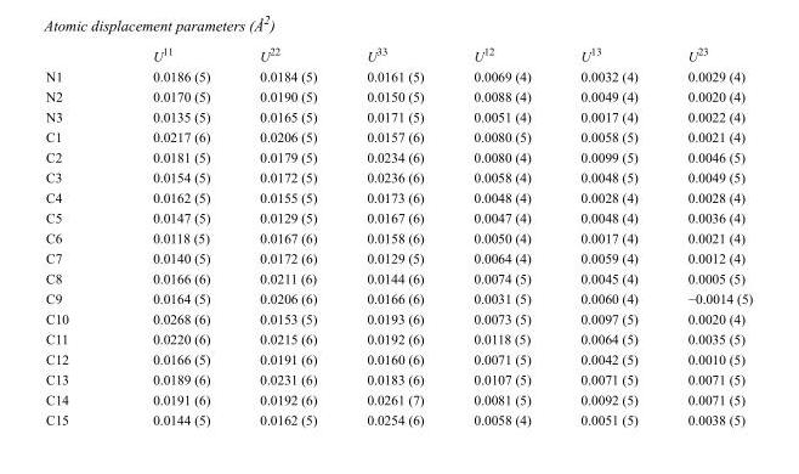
<table><thead><tr><td></td><td>U<sup>11</sup></td><td>U<sup>22</sup></td><td>U<sup>33</sup></td><td>U<sup>12</sup></td><td>U<sup>13</sup></td><td>U<sup>23</sup></td></tr></thead><tbody><tr><td>N1</td><td>0.0186 (5)</td><td>0.0184 (5)</td><td>0.0161 (5)</td><td>0.0069 (4)</td><td>0.0032 (4)</td><td>0.0029 (4)</td></tr><tr><td>N2</td><td>0.0170 (5)</td><td>0.0190 (5)</td><td>0.0150 (5)</td><td>0.0088 (4)</td><td>0.0049 (4)</td><td>0.0020 (4)</td></tr><tr><td>N3</td><td>0.0135 (5)</td><td>0.0165 (5)</td><td>0.0171 (5)</td><td>0.0051 (4)</td><td>0.0017 (4)</td><td>0.0022 (4)</td></tr><tr><td>C1</td><td>0.0217 (6)</td><td>0.0206 (5)</td><td>0.0157 (6)</td><td>0.0080 (5)</td><td>0.0058 (5)</td><td>0.0021 (4)</td></tr><tr><td>C2</td><td>0.0181 (5)</td><td>0.0179 (5)</td><td>0.0234 (6)</td><td>0.0080 (4)</td><td>0.0099 (5)</td><td>0.0046 (5)</td></tr><tr><td>C3</td><td>0.0154 (5)</td><td>0.0172 (5)</td><td>0.0236 (6)</td><td>0.0058 (4)</td><td>0.0048 (5)</td><td>0.0049 (5)</td></tr><tr><td>C4</td><td>0.0162 (5)</td><td>0.0155 (5)</td><td>0.0173 (6)</td><td>0.0048 (4)</td><td>0.0028 (4)</td><td>0.0028 (4)</td></tr><tr><td>C5</td><td>0.0147 (5)</td><td>0.0129 (5)</td><td>0.0167 (6)</td><td>0.0047 (4)</td><td>0.0048 (4)</td><td>0.0036 (4)</td></tr><tr><td>C6</td><td>0.0118 (5)</td><td>0.0167 (6)</td><td>0.0158 (6)</td><td>0.0050 (4)</td><td>0.0017 (4)</td><td>0.0021 (4)</td></tr><tr><td>C7</td><td>0.0140 (5)</td><td>0.0172 (6)</td><td>0.0129 (5)</td><td>0.0064 (4)</td><td>0.0059 (4)</td><td>0.0012 (4)</td></tr><tr><td>C8</td><td>0.0166 (6)</td><td>0.0211 (6)</td><td>0.0144 (6)</td><td>0.0074 (5)</td><td>0.0045 (4)</td><td>0.0005 (5)</td></tr><tr><td>C9</td><td>0.0164 (5)</td><td>0.0206 (6)</td><td>0.0166 (6)</td><td>0.0031 (5)</td><td>0.0060 (4)</td><td>−0.0014 (5)</td></tr><tr><td>C10</td><td>0.0268 (6)</td><td>0.0153 (5)</td><td>0.0193 (6)</td><td>0.0073 (5)</td><td>0.0097 (5)</td><td>0.0020 (4)</td></tr><tr><td>C11</td><td>0.0220 (6)</td><td>0.0215 (6)</td><td>0.0192 (6)</td><td>0.0118 (5)</td><td>0.0064 (5)</td><td>0.0035 (5)</td></tr><tr><td>C12</td><td>0.0166 (5)</td><td>0.0191 (6)</td><td>0.0160 (6)</td><td>0.0071 (5)</td><td>0.0042 (5)</td><td>0.0010 (5)</td></tr><tr><td>C13</td><td>0.0189 (6)</td><td>0.0231 (6)</td><td>0.0183 (6)</td><td>0.0107 (5)</td><td>0.0071 (5)</td><td>0.0071 (5)</td></tr><tr><td>C14</td><td>0.0191 (6)</td><td>0.0192 (6)</td><td>0.0261 (7)</td><td>0.0081 (5)</td><td>0.0092 (5)</td><td>0.0071 (5)</td></tr><tr><td>C15</td><td>0.0144 (5)</td><td>0.0162 (5)</td><td>0.0254 (6)</td><td>0.0058 (4)</td><td>0.0051 (5)</td><td>0.0038 (5)</td></tr></tbody></table>